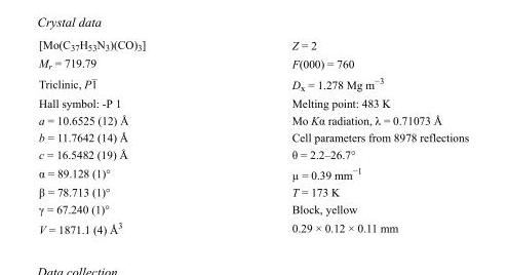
<table><tbody><tr><td>[Mo(C<sub>37</sub>H<sub>53</sub>N<sub>3</sub>)(CO)<sub>3</sub>]</td><td>Z = 2</td></tr><tr><td>M<sub>r</sub> = 719.79</td><td>F(000) = 760</td></tr><tr><td>Triclinic, P1</td><td>D<sub>x</sub> = 1.278 Mg m<sup>−3</sup></td></tr><tr><td>Hall symbol: -P 1</td><td>Melting point: 483 K</td></tr><tr><td>a = 10.6525 (12) Å</td><td>Mo Kα radiation, λ = 0.71073 Å</td></tr><tr><td>b = 11.7642 (14) Å</td><td>Cell parameters from 8978 reflections</td></tr><tr><td>c = 16.5482 (19) Å</td><td>θ = 2.2–26.7°</td></tr><tr><td>α = 89.128 (1)°</td><td>µ = 0.39 mm<sup>−1</sup></td></tr><tr><td>β = 78.713 (1)°</td><td>T = 173 K</td></tr><tr><td>γ = 67.240 (1)°</td><td>Block, yellow</td></tr><tr><td>V = 1871.1 (4) Å<sup>3</sup></td><td>0.29 × 0.12 × 0.11 mm</td></tr></tbody></table>